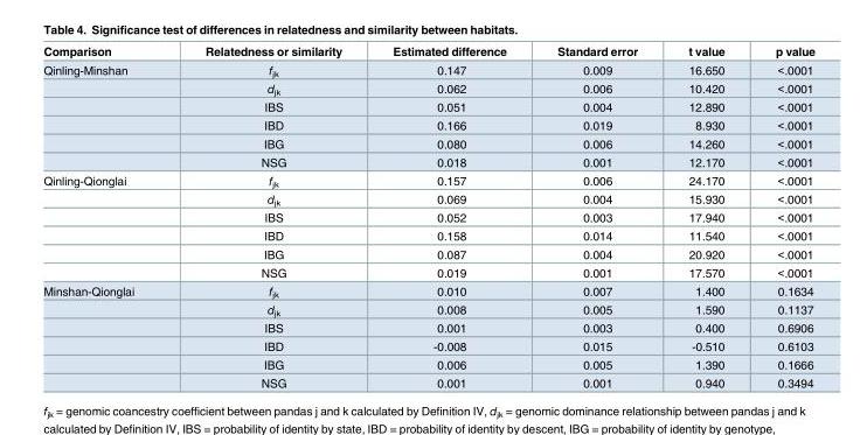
<table><thead><tr><td>Comparison</td><td>Relatedness or similarity</td><td>Estimated difference</td><td>Standard error</td><td>t value</td><td>p value</td></tr></thead><tbody><tr><td rowspan="6">Qinling-Minshan</td><td>f<sub>jk</sub></td><td>0.147</td><td>0.009</td><td>16.650</td><td>&lt;.0001</td></tr><tr><td>d<sub>jk</sub></td><td>0.062</td><td>0.006</td><td>10.420</td><td>&lt;.0001</td></tr><tr><td>IBS</td><td>0.051</td><td>0.004</td><td>12.890</td><td>&lt;.0001</td></tr><tr><td>IBD</td><td>0.166</td><td>0.019</td><td>8.930</td><td>&lt;.0001</td></tr><tr><td>IBG</td><td>0.080</td><td>0.006</td><td>14.260</td><td>&lt;.0001</td></tr><tr><td>NSG</td><td>0.018</td><td>0.001</td><td>12.170</td><td>&lt;.0001</td></tr><tr><td rowspan="6">Qinling-Qionglai</td><td>f<sub>jk</sub></td><td>0.157</td><td>0.006</td><td>24.170</td><td>&lt;.0001</td></tr><tr><td>d<sub>jk</sub></td><td>0.069</td><td>0.004</td><td>15.930</td><td>&lt;.0001</td></tr><tr><td>IBS</td><td>0.052</td><td>0.003</td><td>17.940</td><td>&lt;.0001</td></tr><tr><td>IBD</td><td>0.158</td><td>0.014</td><td>11.540</td><td>&lt;.0001</td></tr><tr><td>IBG</td><td>0.087</td><td>0.004</td><td>20.920</td><td>&lt;.0001</td></tr><tr><td>NSG</td><td>0.019</td><td>0.001</td><td>17.570</td><td>&lt;.0001</td></tr><tr><td rowspan="6">Minshan-Qionglai</td><td>f<sub>jk</sub></td><td>0.010</td><td>0.007</td><td>1.400</td><td>0.1634</td></tr><tr><td>d<sub>jk</sub></td><td>0.008</td><td>0.005</td><td>1.590</td><td>0.1137</td></tr><tr><td>IBS</td><td>0.001</td><td>0.003</td><td>0.400</td><td>0.6906</td></tr><tr><td>IBD</td><td>-0.008</td><td>0.015</td><td>-0.510</td><td>0.6103</td></tr><tr><td>IBG</td><td>0.006</td><td>0.005</td><td>1.390</td><td>0.1666</td></tr><tr><td>NSG</td><td>0.001</td><td>0.001</td><td>0.940</td><td>0.3494</td></tr></tbody></table>